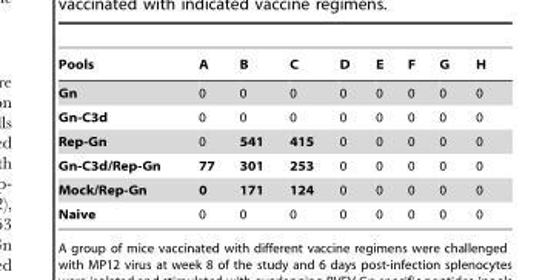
<table><thead><tr><td>Pools</td><td>A</td><td>B</td><td>C</td><td>D</td><td>E</td><td>F</td><td>G</td><td>H</td></tr></thead><tbody><tr><td>Gn</td><td>0</td><td>0</td><td>0</td><td>0</td><td>0</td><td>0</td><td>0</td><td>0</td></tr><tr><td>Gn-C3d</td><td>0</td><td>0</td><td>0</td><td>0</td><td>0</td><td>0</td><td>0</td><td>0</td></tr><tr><td>Rep-Gn</td><td>0</td><td>541</td><td>415</td><td>0</td><td>0</td><td>0</td><td>0</td><td>0</td></tr><tr><td>Gn-C3d/Rep-Gn</td><td>77</td><td>301</td><td>253</td><td>0</td><td>0</td><td>0</td><td>0</td><td>0</td></tr><tr><td>Mock/Rep-Gn</td><td>0</td><td>171</td><td>124</td><td>0</td><td>0</td><td>0</td><td>0</td><td>0</td></tr><tr><td>Naive</td><td>0</td><td>0</td><td>0</td><td>0</td><td>0</td><td>0</td><td>0</td><td>0</td></tr></tbody></table>